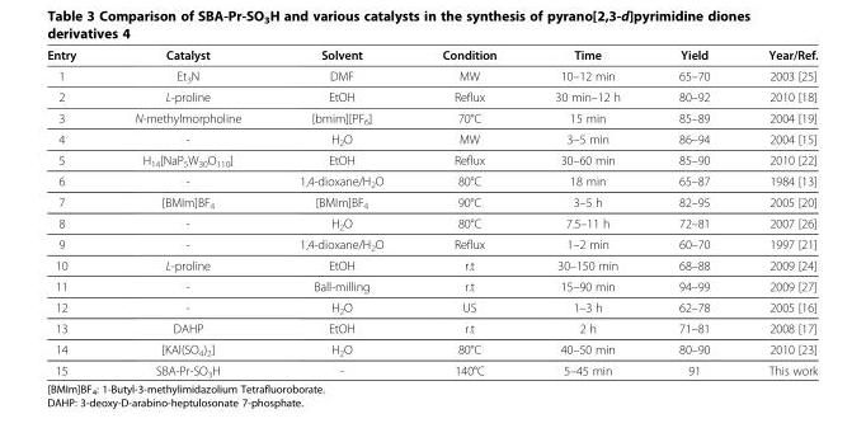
<table><thead><tr><td>Entry</td><td>Catalyst</td><td>Solvent</td><td>Condition</td><td>Time</td><td>Yield</td><td>Year/Ref.</td></tr></thead><tbody><tr><td>1</td><td>Et<sub>3</sub>N</td><td>DMF</td><td>MW</td><td>10–12 min</td><td>65–70</td><td>2003 [25]</td></tr><tr><td>2</td><td>L-proline</td><td>EtOH</td><td>Reflux</td><td>30 min–12 h</td><td>80–92</td><td>2010 [18]</td></tr><tr><td>3</td><td>N-methylmorpholine</td><td>[bmim][PF<sub>6</sub>]</td><td>70°C</td><td>15 min</td><td>85–89</td><td>2004 [19]</td></tr><tr><td>4</td><td>-</td><td>H<sub>2</sub>O</td><td>MW</td><td>3–5 min</td><td>86–94</td><td>2004 [15]</td></tr><tr><td>5</td><td>H<sub>14</sub>[NaP<sub>5</sub>W<sub>30</sub>O<sub>110</sub>]</td><td>EtOH</td><td>Reflux</td><td>30–60 min</td><td>85–90</td><td>2010 [22]</td></tr><tr><td>6</td><td>-</td><td>1,4-dioxane/H<sub>2</sub>O</td><td>80°C</td><td>18 min</td><td>65–87</td><td>1984 [13]</td></tr><tr><td>7</td><td>[BMIm]BF<sub>4</sub></td><td>[BMIm]BF<sub>4</sub></td><td>90°C</td><td>3–5 h</td><td>82–95</td><td>2005 [20]</td></tr><tr><td>8</td><td>-</td><td>H<sub>2</sub>O</td><td>80°C</td><td>7.5–11 h</td><td>72–81</td><td>2007 [26]</td></tr><tr><td>9</td><td>-</td><td>1,4-dioxane/H<sub>2</sub>O</td><td>Reflux</td><td>1–2 min</td><td>60–70</td><td>1997 [21]</td></tr><tr><td>10</td><td>L-proline</td><td>EtOH</td><td>r.t</td><td>30–150 min</td><td>68–88</td><td>2009 [24]</td></tr><tr><td>11</td><td>-</td><td>Ball-milling</td><td>r.t</td><td>15–90 min</td><td>94–99</td><td>2009 [27]</td></tr><tr><td>12</td><td>-</td><td>H<sub>2</sub>O</td><td>US</td><td>1–3 h</td><td>62–78</td><td>2005 [16]</td></tr><tr><td>13</td><td>DAHP</td><td>EtOH</td><td>r.t</td><td>2 h</td><td>71–81</td><td>2008 [17]</td></tr><tr><td>14</td><td>[KAl(SO<sub>4</sub>)<sub>2</sub>]</td><td>H<sub>2</sub>O</td><td>80°C</td><td>40–50 min</td><td>80–90</td><td>2010 [23]</td></tr><tr><td>15</td><td>SBA-Pr-SO<sub>3</sub>H</td><td>-</td><td>140°C</td><td>5–45 min</td><td>91</td><td>This work</td></tr></tbody></table>